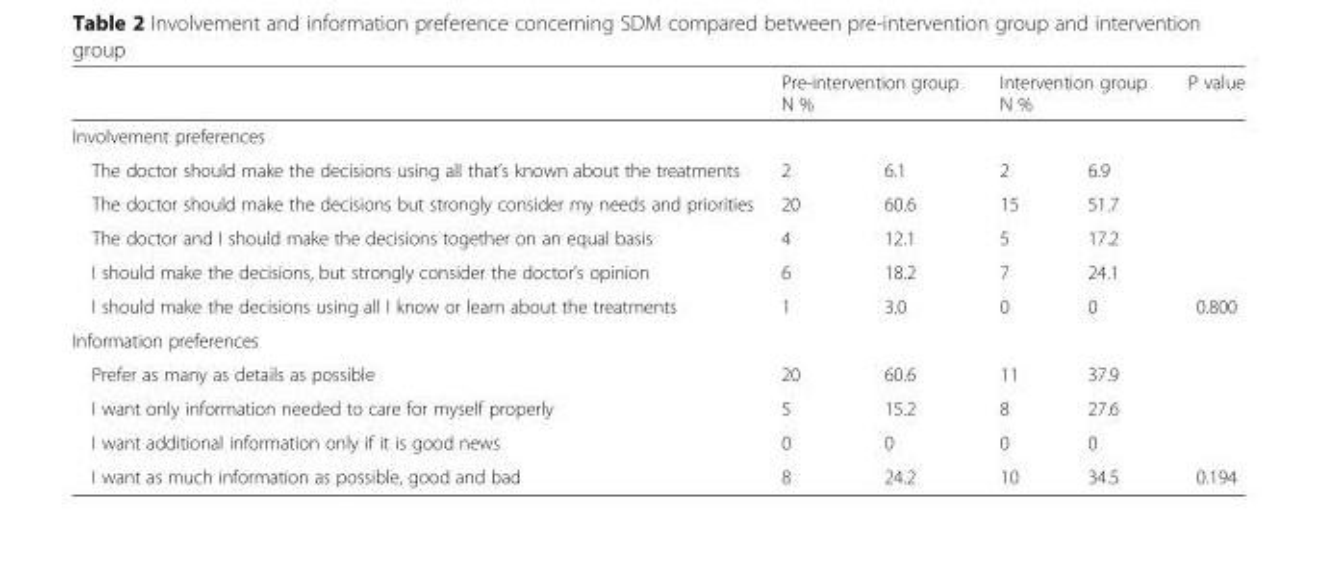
<table><thead><tr><td></td><td colspan="2">Pre-intervention group N %</td><td colspan="2">Intervention group N %</td><td>P value</td></tr><tr><td colspan="6">Involvement preferences</td></tr><tr><td>The doctor should make the decisions using all that’s known about the treatments</td><td>2</td><td>6.1</td><td>2</td><td>6.9</td><td></td></tr></thead><tbody><tr><td>The doctor should make the decisions but strongly consider my needs and priorities</td><td>20</td><td>60.6</td><td>15</td><td>51.7</td><td></td></tr><tr><td>The doctor and I should make the decisions together on an equal basis</td><td>4</td><td>12.1</td><td>5</td><td>17.2</td><td></td></tr><tr><td>I should make the decisions, but strongly consider the doctor’s opinion</td><td>6</td><td>18.2</td><td>7</td><td>24.1</td><td></td></tr><tr><td>I should make the decisions using all I know or learn about the treatments</td><td>1</td><td>3.0</td><td>0</td><td>0</td><td>0.800</td></tr><tr><td colspan="6">Information preferences</td></tr><tr><td>Prefer as many as details as possible</td><td>20</td><td>60.6</td><td>11</td><td>37.9</td><td></td></tr><tr><td>I want only information needed to care for myself properly</td><td>5</td><td>15.2</td><td>8</td><td>27.6</td><td></td></tr><tr><td>I want additional information only if it is good news</td><td>0</td><td>0</td><td>0</td><td>0</td><td></td></tr><tr><td>I want as much information as possible, good and bad</td><td>8</td><td>24.2</td><td>10</td><td>34.5</td><td>0.194</td></tr></tbody></table>